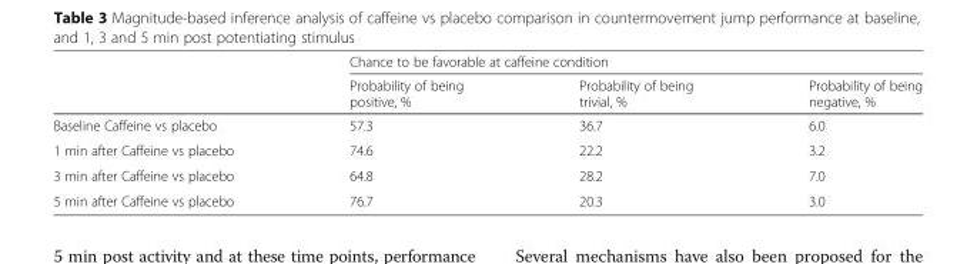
<table><thead><tr><td rowspan="2"></td><td colspan="3">Chance to be favorable at caffeine condition</td></tr><tr><td>Probability of being positive, %</td><td>Probability of being trivial, %</td><td>Probability of being negative, %</td></tr></thead><tbody><tr><td>Baseline Caffeine vs placebo</td><td>57.3</td><td>36.7</td><td>6.0</td></tr><tr><td>1 min after Caffeine vs placebo</td><td>74.6</td><td>22.2</td><td>3.2</td></tr><tr><td>3 min after Caffeine vs placebo</td><td>64.8</td><td>28.2</td><td>7.0</td></tr><tr><td>5 min after Caffeine vs placebo</td><td>76.7</td><td>20.3</td><td>3.0</td></tr></tbody></table>